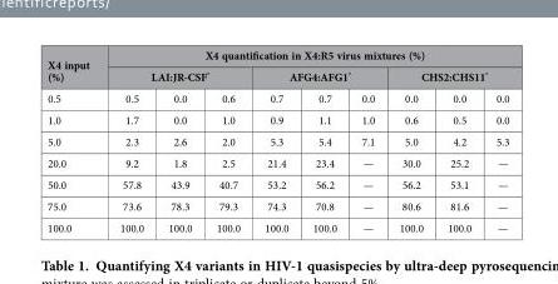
<table><thead><tr><td rowspan="3">X4 input (%) 0.5</td><td colspan="9">X4 quantification in X4:R5 virus mixtures (%)</td></tr><tr><td colspan="3">LAI:JR-CSF*</td><td colspan="3">AFG4:AFG1*</td><td colspan="3">CHS2:CHS11*</td></tr><tr><td>0.5</td><td>0.0</td><td>0.6</td><td>0.7</td><td>0.7</td><td>0.0</td><td>0.0</td><td>0.0</td><td>0.0</td></tr></thead><tbody><tr><td>1.0</td><td>1.7</td><td>0.0</td><td>1.0</td><td>0.9</td><td>1.1</td><td>1.0</td><td>0.6</td><td>0.5</td><td>0.0</td></tr><tr><td>5.0</td><td>2.3</td><td>2.6</td><td>2.0</td><td>5.3</td><td>5.4</td><td>7.1</td><td>5.0</td><td>4.2</td><td>5.3</td></tr><tr><td>20.0</td><td>9.2</td><td>1.8</td><td>2.5</td><td>21.4</td><td>23.4</td><td>—</td><td>30.0</td><td>25.2</td><td>—</td></tr><tr><td>50.0</td><td>57.8</td><td>43.9</td><td>40.7</td><td>53.2</td><td>56.2</td><td>—</td><td>56.2</td><td>53.1</td><td>—</td></tr><tr><td>75.0</td><td>73.6</td><td>78.3</td><td>79.3</td><td>74.3</td><td>70.8</td><td>—</td><td>80.6</td><td>81.6</td><td>—</td></tr><tr><td>100.0</td><td>100.0</td><td>100.0</td><td>100.0</td><td>100.0</td><td>100.0</td><td>—</td><td>100.0</td><td>100.0</td><td>—</td></tr></tbody></table>